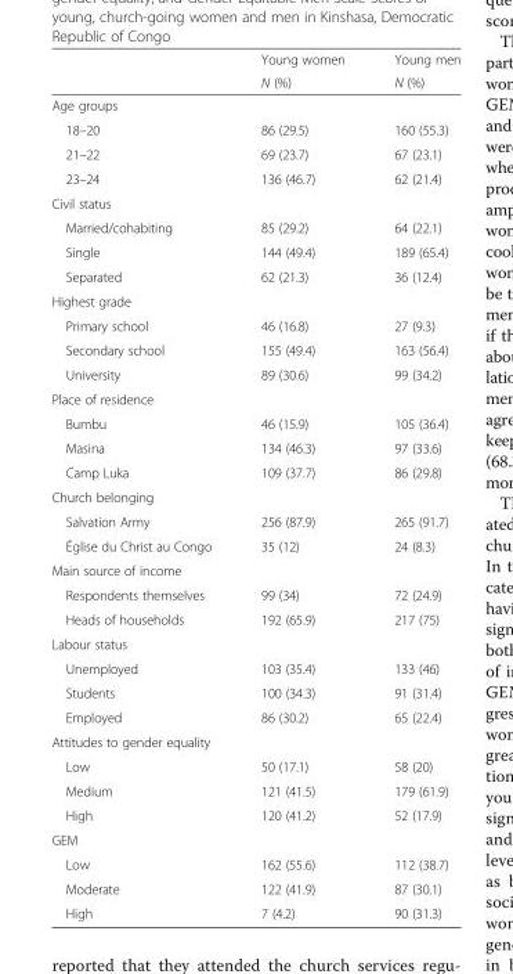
<table><thead><tr><td rowspan="2"></td><td rowspan="2">Young women N (%)</td><td rowspan="2">Young men N (%)</td></tr><tr></tr></thead><tbody><tr><td colspan="3">Age groups</td></tr><tr><td>18–20</td><td>86 (29.5)</td><td>160 (55.3)</td></tr><tr><td>21–22</td><td>69 (23.7)</td><td>67 (23.1)</td></tr><tr><td>23–24</td><td>136 (46.7)</td><td>62 (21.4)</td></tr><tr><td colspan="3">Civil status</td></tr><tr><td>Married/cohabiting</td><td>85 (29.2)</td><td>64 (22.1)</td></tr><tr><td>Single</td><td>144 (49.4)</td><td>189 (65.4)</td></tr><tr><td>Separated</td><td>62 (21.3)</td><td>36 (12.4)</td></tr><tr><td colspan="3">Highest grade</td></tr><tr><td>Primary school</td><td>46 (16.8)</td><td>27 (9.3)</td></tr><tr><td>Secondary school</td><td>155 (49.4)</td><td>163 (56.4)</td></tr><tr><td>University</td><td>89 (30.6)</td><td>99 (34.2)</td></tr><tr><td colspan="3">Place of residence</td></tr><tr><td>Bumbu</td><td>46 (15.9)</td><td>105 (36.4)</td></tr><tr><td>Masina</td><td>134 (46.3)</td><td>97 (33.6)</td></tr><tr><td>Camp Luka</td><td>109 (37.7)</td><td>86 (29.8)</td></tr><tr><td colspan="3">Church belonging</td></tr><tr><td>Salvation Army</td><td>256 (87.9)</td><td>265 (91.7)</td></tr><tr><td>Église du Christ au Congo</td><td>35 (12)</td><td>24 (8.3)</td></tr><tr><td colspan="3">Main source of income</td></tr><tr><td>Respondents themselves</td><td>99 (34)</td><td>72 (24.9)</td></tr><tr><td>Heads of households</td><td>192 (65.9)</td><td>217 (75)</td></tr><tr><td colspan="3">Labour status</td></tr><tr><td>Unemployed</td><td>103 (35.4)</td><td>133 (46)</td></tr><tr><td>Students</td><td>100 (34.3)</td><td>91 (31.4)</td></tr><tr><td>Employed</td><td>86 (30.2)</td><td>65 (22.4)</td></tr><tr><td colspan="3">Attitudes to gender equality</td></tr><tr><td>Low</td><td>50 (17.1)</td><td>58 (20)</td></tr><tr><td>Medium</td><td>121 (41.5)</td><td>179 (61.9)</td></tr><tr><td>High</td><td>120 (41.2)</td><td>52 (17.9)</td></tr><tr><td colspan="3">GEM</td></tr><tr><td>Low</td><td>162 (55.6)</td><td>112 (38.7)</td></tr><tr><td>Moderate</td><td>122 (41.9)</td><td>87 (30.1)</td></tr><tr><td>High</td><td>7 (4.2)</td><td>90 (31.3)</td></tr></tbody></table>